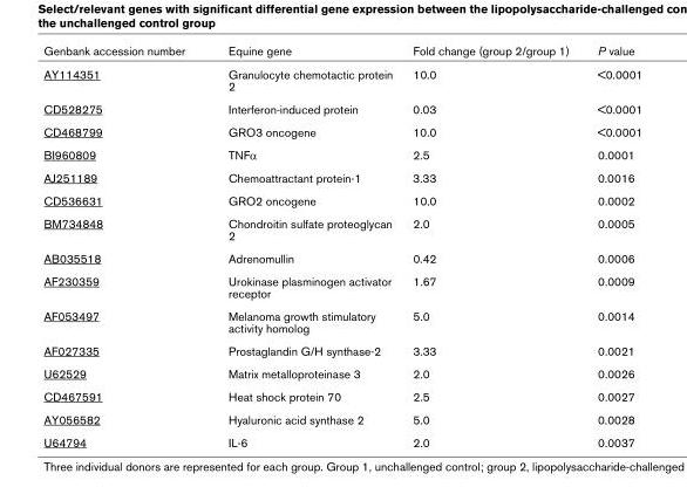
<table><thead><tr><td>Genbank accession number</td><td>Equine gene</td><td>Fold change (group 2/group 1)</td><td>P value</td></tr></thead><tbody><tr><td>AY114351</td><td>Granulocyte chemotactic protein 2</td><td>10.0</td><td>&lt;0.0001</td></tr><tr><td>CD528275</td><td>Interferon-induced protein</td><td>0.03</td><td>&lt;0.0001</td></tr><tr><td>CD468799</td><td>GRO3 oncogene</td><td>10.0</td><td>&lt;0.0001</td></tr><tr><td>BI960809</td><td>TNFα</td><td>2.5</td><td>0.0001</td></tr><tr><td>AJ251189</td><td>Chemoattractant protein-1</td><td>3.33</td><td>0.0016</td></tr><tr><td>CD536631</td><td>GRO2 oncogene</td><td>10.0</td><td>0.0002</td></tr><tr><td>BM734848</td><td>Chondroitin sulfate proteoglycan 2</td><td>2.0</td><td>0.0005</td></tr><tr><td>AB035518</td><td>Adrenomullin</td><td>0.42</td><td>0.0006</td></tr><tr><td>AF230359</td><td>Urokinase plasminogen activator receptor</td><td>1.67</td><td>0.0009</td></tr><tr><td>AF053497</td><td>Melanoma growth stimulatory activity homolog</td><td>5.0</td><td>0.0014</td></tr><tr><td>AF027335</td><td>Prostaglandin G/H synthase-2</td><td>3.33</td><td>0.0021</td></tr><tr><td>U62529</td><td>Matrix metalloproteinase 3</td><td>2.0</td><td>0.0026</td></tr><tr><td>CD467591</td><td>Heat shock protein 70</td><td>2.5</td><td>0.0027</td></tr><tr><td>AY056582</td><td>Hyaluronic acid synthase 2</td><td>5.0</td><td>0.0028</td></tr><tr><td>U64794</td><td>IL-6</td><td>2.0</td><td>0.0037</td></tr></tbody></table>